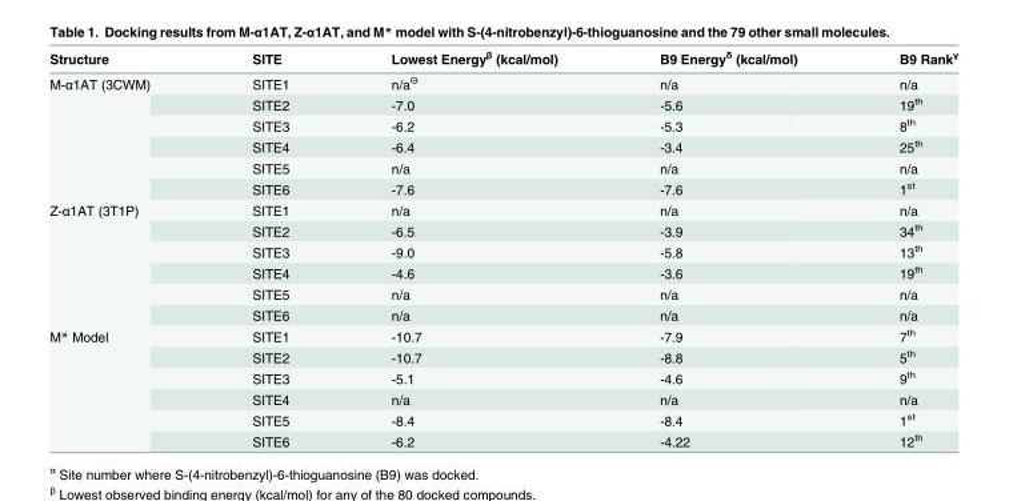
<table><thead><tr><td>Structure</td><td>SITE</td><td>Lowest Energy<sup>β</sup> (kcal/mol)</td><td>B9 Energy<sup>δ</sup> (kcal/mol)</td><td>B9 Rank<sup>γ</sup></td></tr></thead><tbody><tr><td rowspan="6">M-α1AT (3CWM)</td><td>SITE1</td><td>n/a<sup>Θ</sup></td><td>n/a</td><td>n/a</td></tr><tr><td>SITE2</td><td>-7.0</td><td>-5.6</td><td>19<sup>th</sup></td></tr><tr><td>SITE3</td><td>-6.2</td><td>-5.3</td><td>8<sup>th</sup></td></tr><tr><td>SITE4</td><td>-6.4</td><td>-3.4</td><td>25<sup>th</sup></td></tr><tr><td>SITE5</td><td>n/a</td><td>n/a</td><td>n/a</td></tr><tr><td>SITE6</td><td>-7.6</td><td>-7.6</td><td>1<sup>st</sup></td></tr><tr><td rowspan="6">Z-α1AT (3T1P)</td><td>SITE1</td><td>n/a</td><td>n/a</td><td>n/a</td></tr><tr><td>SITE2</td><td>-6.5</td><td>-3.9</td><td>34<sup>th</sup></td></tr><tr><td>SITE3</td><td>-9.0</td><td>-5.8</td><td>13<sup>th</sup></td></tr><tr><td>SITE4</td><td>-4.6</td><td>-3.6</td><td>19<sup>th</sup></td></tr><tr><td>SITE5</td><td>n/a</td><td>n/a</td><td>n/a</td></tr><tr><td>SITE6</td><td>n/a</td><td>n/a</td><td>n/a</td></tr><tr><td rowspan="6">M* Model</td><td>SITE1</td><td>-10.7</td><td>-7.9</td><td>7<sup>th</sup></td></tr><tr><td>SITE2</td><td>-10.7</td><td>-8.8</td><td>5<sup>th</sup></td></tr><tr><td>SITE3</td><td>-5.1</td><td>-4.6</td><td>9<sup>th</sup></td></tr><tr><td>SITE4</td><td>n/a</td><td>n/a</td><td>n/a</td></tr><tr><td>SITE5</td><td>-8.4</td><td>-8.4</td><td>1<sup>st</sup></td></tr><tr><td>SITE6</td><td>-6.2</td><td>-4.22</td><td>12<sup>th</sup></td></tr></tbody></table>